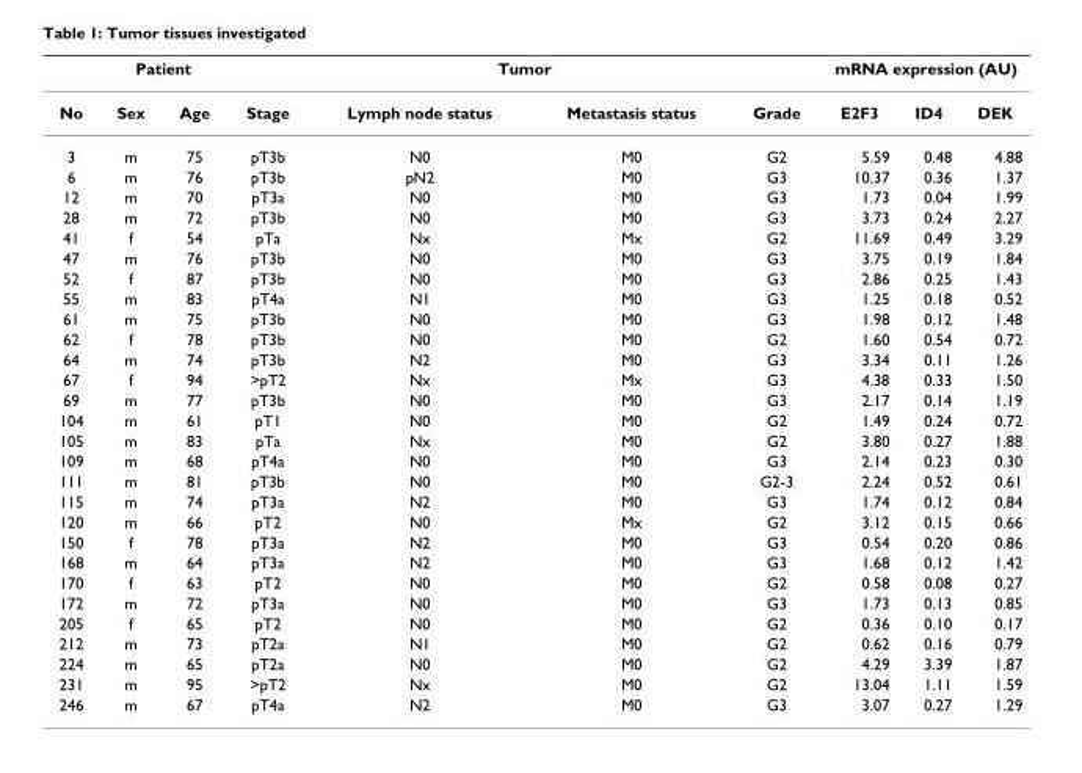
<table><thead><tr><td rowspan="2">No</td><td colspan="2">Patient</td><td colspan="4">Tumor</td><td colspan="3">mRNA expression (AU)</td></tr><tr><td>Sex</td><td>Age</td><td>Stage</td><td>Lymph node status</td><td>Metastasis status</td><td>Grade</td><td>E2F3</td><td>ID4</td><td>DEK</td></tr></thead><tbody><tr><td>3</td><td>m</td><td>75</td><td>pT3b</td><td>N0</td><td>M0</td><td>G2</td><td>5.59</td><td>0.48</td><td>4.88</td></tr><tr><td>6</td><td>m</td><td>76</td><td>pT3b</td><td>pN2</td><td>M0</td><td>G3</td><td>10.37</td><td>0.36</td><td>1.37</td></tr><tr><td>12</td><td>m</td><td>70</td><td>pT3a</td><td>N0</td><td>M0</td><td>G3</td><td>1.73</td><td>0.04</td><td>1.99</td></tr><tr><td>28</td><td>m</td><td>72</td><td>pT3b</td><td>N0</td><td>M0</td><td>G3</td><td>3.73</td><td>0.24</td><td>2.27</td></tr><tr><td>41</td><td>f</td><td>54</td><td>pTa</td><td>Nx</td><td>Mx</td><td>G2</td><td>11.69</td><td>0.49</td><td>3.29</td></tr><tr><td>47</td><td>m</td><td>76</td><td>pT3b</td><td>N0</td><td>M0</td><td>G3</td><td>3.75</td><td>0.19</td><td>1.84</td></tr><tr><td>52</td><td>f</td><td>87</td><td>pT3b</td><td>N0</td><td>M0</td><td>G3</td><td>2.86</td><td>0.25</td><td>1.43</td></tr><tr><td>55</td><td>m</td><td>83</td><td>pT4a</td><td>N1</td><td>M0</td><td>G3</td><td>1.25</td><td>0.18</td><td>0.52</td></tr><tr><td>61</td><td>m</td><td>75</td><td>pT3b</td><td>N0</td><td>M0</td><td>G3</td><td>1.98</td><td>0.12</td><td>1.48</td></tr><tr><td>62</td><td>f</td><td>78</td><td>pT3b</td><td>N0</td><td>M0</td><td>G2</td><td>1.60</td><td>0.54</td><td>0.72</td></tr><tr><td>64</td><td>m</td><td>74</td><td>pT3b</td><td>N2</td><td>M0</td><td>G3</td><td>3.34</td><td>0.11</td><td>1.26</td></tr><tr><td>67</td><td>f</td><td>94</td><td>&gt;pT2</td><td>Nx</td><td>Mx</td><td>G3</td><td>4.38</td><td>0.33</td><td>1.50</td></tr><tr><td>69</td><td>m</td><td>77</td><td>pT3b</td><td>N0</td><td>M0</td><td>G3</td><td>2.17</td><td>0.14</td><td>1.19</td></tr><tr><td>104</td><td>m</td><td>61</td><td>pT1</td><td>N0</td><td>M0</td><td>G2</td><td>1.49</td><td>0.24</td><td>0.72</td></tr><tr><td>105</td><td>m</td><td>83</td><td>pTa</td><td>Nx</td><td>M0</td><td>G2</td><td>3.80</td><td>0.27</td><td>1.88</td></tr><tr><td>109</td><td>m</td><td>68</td><td>pT4a</td><td>N0</td><td>M0</td><td>G3</td><td>2.14</td><td>0.23</td><td>0.30</td></tr><tr><td>111</td><td>m</td><td>81</td><td>pT3b</td><td>N0</td><td>M0</td><td>G2-3</td><td>2.24</td><td>0.52</td><td>0.61</td></tr><tr><td>115</td><td>m</td><td>74</td><td>pT3a</td><td>N2</td><td>M0</td><td>G3</td><td>1.74</td><td>0.12</td><td>0.84</td></tr><tr><td>120</td><td>m</td><td>66</td><td>pT2</td><td>N0</td><td>Mx</td><td>G2</td><td>3.12</td><td>0.15</td><td>0.66</td></tr><tr><td>150</td><td>f</td><td>78</td><td>pT3a</td><td>N2</td><td>M0</td><td>G3</td><td>0.54</td><td>0.20</td><td>0.86</td></tr><tr><td>168</td><td>m</td><td>64</td><td>pT3a</td><td>N2</td><td>M0</td><td>G3</td><td>1.68</td><td>0.12</td><td>1.42</td></tr><tr><td>170</td><td>f</td><td>63</td><td>pT2</td><td>N0</td><td>M0</td><td>G2</td><td>0.58</td><td>0.08</td><td>0.27</td></tr><tr><td>172</td><td>m</td><td>72</td><td>pT3a</td><td>N0</td><td>M0</td><td>G3</td><td>1.73</td><td>0.13</td><td>0.85</td></tr><tr><td>205</td><td>f</td><td>65</td><td>pT2</td><td>N0</td><td>M0</td><td>G2</td><td>0.36</td><td>0.10</td><td>0.17</td></tr><tr><td>212</td><td>m</td><td>73</td><td>pT2a</td><td>N1</td><td>M0</td><td>G2</td><td>0.62</td><td>0.16</td><td>0.79</td></tr><tr><td>224</td><td>m</td><td>65</td><td>pT2a</td><td>N0</td><td>M0</td><td>G2</td><td>4.29</td><td>3.39</td><td>1.87</td></tr><tr><td>231</td><td>m</td><td>95</td><td>&gt;pT2</td><td>Nx</td><td>M0</td><td>G2</td><td>13.04</td><td>1.11</td><td>1.59</td></tr><tr><td>246</td><td>m</td><td>67</td><td>pT4a</td><td>N2</td><td>M0</td><td>G3</td><td>3.07</td><td>0.27</td><td>1.29</td></tr></tbody></table>